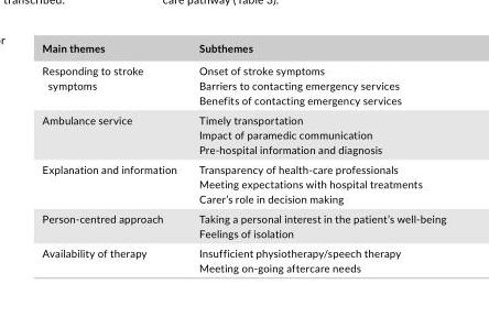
<table><thead><tr><td>Main themes</td><td>Subthemes</td></tr></thead><tbody><tr><td>Responding to stroke symptoms</td><td>Onset of stroke symptoms Barriers to contacting emergency services Benefits of contacting emergency services</td></tr><tr><td>Ambulance service</td><td>Timely transportation Impact of paramedic communication Pre- hospital information and diagnosis</td></tr><tr><td>Explanation and information</td><td>Transparency of health- care professionals Meeting expectations with hospital treatments Carer’s role in decision making</td></tr><tr><td>Person- centred approach</td><td>Taking a personal interest in the patient’s well- being Feelings of isolation</td></tr><tr><td>Availability of therapy</td><td>Insufficient physiotherapy/speech therapy Meeting on- going aftercare needs</td></tr></tbody></table>